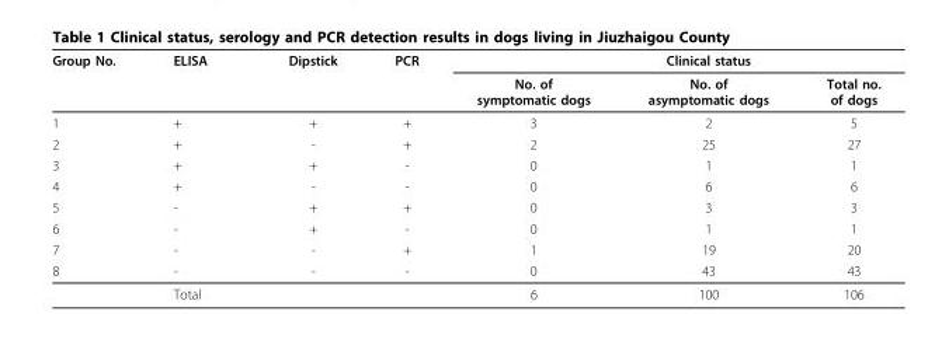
<table><thead><tr><td rowspan="2">Group No.</td><td rowspan="2">ELISA</td><td rowspan="2">Dipstick</td><td rowspan="2">PCR</td><td rowspan="2">No. of symptomatic dogs</td><td rowspan="2">Clinical status No. of asymptomatic dogs</td><td rowspan="2">Total no. of dogs</td></tr><tr></tr></thead><tbody><tr><td>1</td><td>+</td><td>+</td><td>+</td><td>3</td><td>2</td><td>5</td></tr><tr><td>2</td><td>+</td><td>-</td><td>+</td><td>2</td><td>25</td><td>27</td></tr><tr><td>3</td><td>+</td><td>+</td><td>-</td><td>0</td><td>1</td><td>1</td></tr><tr><td>4</td><td>+</td><td>-</td><td>-</td><td>0</td><td>6</td><td>6</td></tr><tr><td>5</td><td>-</td><td>+</td><td>+</td><td>0</td><td>3</td><td>3</td></tr><tr><td>6</td><td>-</td><td>+</td><td>-</td><td>0</td><td>1</td><td>1</td></tr><tr><td>7</td><td>-</td><td>-</td><td>+</td><td>1</td><td>19</td><td>20</td></tr><tr><td rowspan="2">8</td><td>-</td><td>-</td><td>-</td><td>0</td><td>43</td><td>43</td></tr><tr><td>Total</td><td></td><td></td><td>6</td><td>100</td><td>106</td></tr></tbody></table>